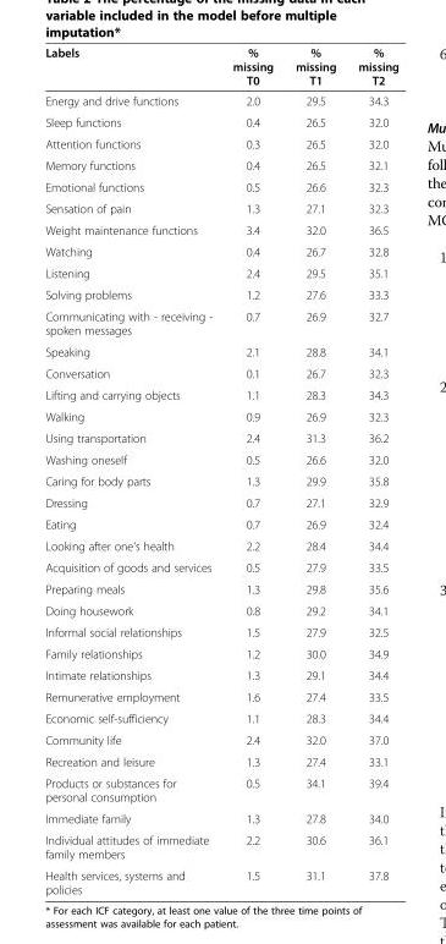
<table><thead><tr><td>Labels</td><td>% missing T0</td><td>% missing T1</td><td>% missing T2</td></tr></thead><tbody><tr><td>Energy and drive functions</td><td>2.0</td><td>29.5</td><td>34.3</td></tr><tr><td>Sleep functions</td><td>0.4</td><td>26.5</td><td>32.0</td></tr><tr><td>Attention functions</td><td>0.3</td><td>26.5</td><td>32.0</td></tr><tr><td>Memory functions</td><td>0.4</td><td>26.5</td><td>32.1</td></tr><tr><td>Emotional functions</td><td>0.5</td><td>26.6</td><td>32.3</td></tr><tr><td>Sensation of pain</td><td>1.3</td><td>27.1</td><td>32.3</td></tr><tr><td>Weight maintenance functions</td><td>3.4</td><td>32.0</td><td>36.5</td></tr><tr><td>Watching</td><td>0.4</td><td>26.7</td><td>32.8</td></tr><tr><td>Listening</td><td>2.4</td><td>29.5</td><td>35.1</td></tr><tr><td>Solving problems</td><td>1.2</td><td>27.6</td><td>33.3</td></tr><tr><td>Communicating with - receiving - spoken messages</td><td>0.7</td><td>26.9</td><td>32.7</td></tr><tr><td>Speaking</td><td>2.1</td><td>28.8</td><td>34.1</td></tr><tr><td>Conversation</td><td>0.1</td><td>26.7</td><td>32.3</td></tr><tr><td>Lifting and carrying objects</td><td>1.1</td><td>28.3</td><td>34.3</td></tr><tr><td>Walking</td><td>0.9</td><td>26.9</td><td>32.3</td></tr><tr><td>Using transportation</td><td>2.4</td><td>31.3</td><td>36.2</td></tr><tr><td>Washing oneself</td><td>0.5</td><td>26.6</td><td>32.0</td></tr><tr><td>Caring for body parts</td><td>1.3</td><td>29.9</td><td>35.8</td></tr><tr><td>Dressing</td><td>0.7</td><td>27.1</td><td>32.9</td></tr><tr><td>Eating</td><td>0.7</td><td>26.9</td><td>32.4</td></tr><tr><td>Looking after one&#x27;s health</td><td>2.2</td><td>28.4</td><td>34.4</td></tr><tr><td>Acquisition of goods and services</td><td>0.5</td><td>27.9</td><td>33.5</td></tr><tr><td>Preparing meals</td><td>1.3</td><td>29.8</td><td>35.6</td></tr><tr><td>Doing housework</td><td>0.8</td><td>29.2</td><td>34.1</td></tr><tr><td>Informal social relationships</td><td>1.5</td><td>27.9</td><td>32.5</td></tr><tr><td>Family relationships</td><td>1.2</td><td>30.0</td><td>34.9</td></tr><tr><td>Intimate relationships</td><td>1.3</td><td>29.1</td><td>34.4</td></tr><tr><td>Remunerative employment</td><td>1.6</td><td>27.4</td><td>33.5</td></tr><tr><td>Economic self-sufficiency</td><td>1.1</td><td>28.3</td><td>34.4</td></tr><tr><td>Community life</td><td>2.4</td><td>32.0</td><td>37.0</td></tr><tr><td>Recreation and leisure</td><td>1.3</td><td>27.4</td><td>33.1</td></tr><tr><td>Products or substances for personal consumption</td><td>0.5</td><td>34.1</td><td>39.4</td></tr><tr><td>Immediate family</td><td>1.3</td><td>27.8</td><td>34.0</td></tr><tr><td>Individual attitudes of immediate family members</td><td>2.2</td><td>30.6</td><td>36.1</td></tr><tr><td>Health services, systems and policies</td><td>1.5</td><td>31.1</td><td>37.8</td></tr></tbody></table>